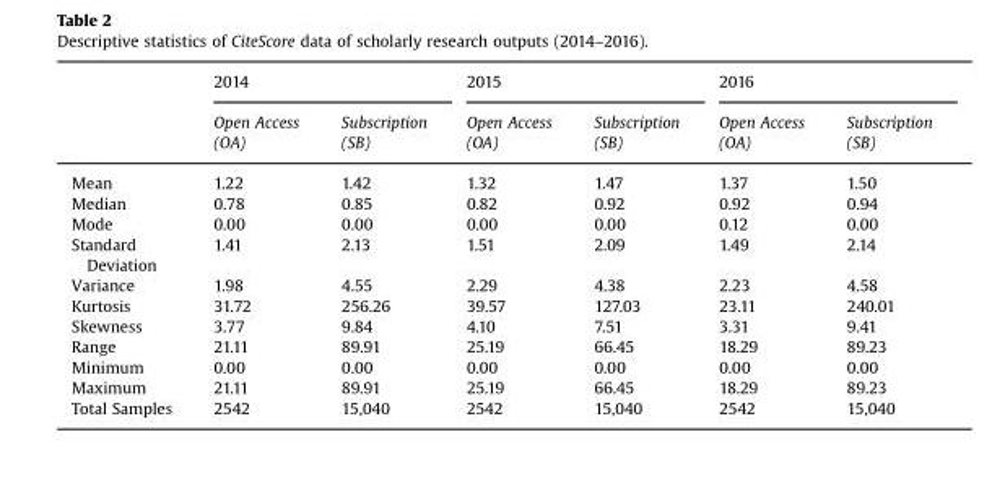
<table><thead><tr><td rowspan="2"></td><td colspan="2">2014</td><td colspan="2">2015</td><td colspan="2">2016</td></tr><tr><td>Open Access (OA)</td><td>Subscription (SB)</td><td>Open Access (OA)</td><td>Subscription (SB)</td><td>Open Access (OA)</td><td>Subscription (SB)</td></tr></thead><tbody><tr><td>Mean</td><td>1.22</td><td>1.42</td><td>1.32</td><td>1.47</td><td>1.37</td><td>1.50</td></tr><tr><td>Median</td><td>0.78</td><td>0.85</td><td>0.82</td><td>0.92</td><td>0.92</td><td>0.94</td></tr><tr><td>Mode</td><td>0.00</td><td>0.00</td><td>0.00</td><td>0.00</td><td>0.12</td><td>0.00</td></tr><tr><td>Standard Deviation</td><td>1.41</td><td>2.13</td><td>1.51</td><td>2.09</td><td>1.49</td><td>2.14</td></tr><tr><td>Variance</td><td>1.98</td><td>4.55</td><td>2.29</td><td>4.38</td><td>2.23</td><td>4.58</td></tr><tr><td>Kurtosis</td><td>31.72</td><td>256.26</td><td>39.57</td><td>127.03</td><td>23.11</td><td>240.01</td></tr><tr><td>Skewness</td><td>3.77</td><td>9.84</td><td>4.10</td><td>7.51</td><td>3.31</td><td>9.41</td></tr><tr><td>Range</td><td>21.11</td><td>89.91</td><td>25.19</td><td>66.45</td><td>18.29</td><td>89.23</td></tr><tr><td>Minimum</td><td>0.00</td><td>0.00</td><td>0.00</td><td>0.00</td><td>0.00</td><td>0.00</td></tr><tr><td>Maximum</td><td>21.11</td><td>89.91</td><td>25.19</td><td>66.45</td><td>18.29</td><td>89.23</td></tr><tr><td>Total Samples</td><td>2542</td><td>15,040</td><td>2542</td><td>15,040</td><td>2542</td><td>15,040</td></tr></tbody></table>